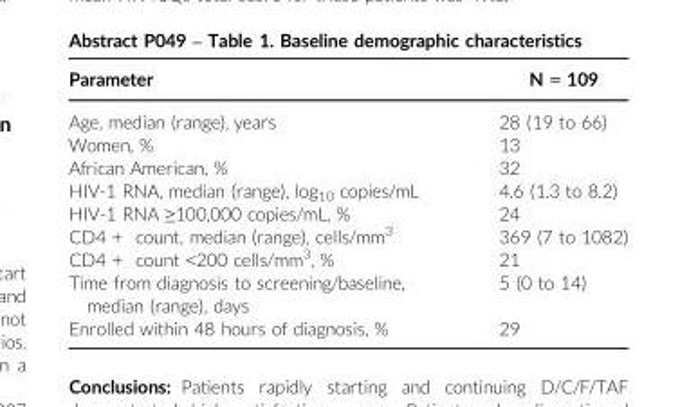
<table><thead><tr><td>Parameter</td><td>N = 109</td></tr></thead><tbody><tr><td>Age, median (range), years</td><td>28 (19 to 66)</td></tr><tr><td>Women, %</td><td>13</td></tr><tr><td>African American, %</td><td>32</td></tr><tr><td>HIV-1 RNA, median (range), log10 copies/mL</td><td>4.6 (1.3 to 8.2)</td></tr><tr><td>HIV-1 RNA ≥100,000 copies/mL, %</td><td>24</td></tr><tr><td>CD4 + count, median (range), cells/mm<sup>3</sup></td><td>369 (7 to 1082)</td></tr><tr><td>CD4 + count &lt;200 cells/mm<sup>3</sup>, %</td><td>21</td></tr><tr><td>Time from diagnosis to screening/baseline, median (range), days</td><td>5 (0 to 14)</td></tr><tr><td>Enrolled within 48 hours of diagnosis, %</td><td>29</td></tr></tbody></table>